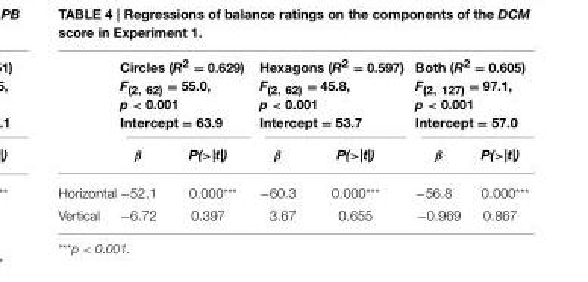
<table><thead><tr><td rowspan="2"></td><td colspan="2">Circles (R<sup>2</sup> = 0.629) F<sub>(2, 62)</sub> = 55.0, p &lt; 0.001 Intercept = 63.9</td><td colspan="2">Hexagons (R<sup>2</sup> = 0.597) F<sub>(2, 62)</sub> = 45.8, p &lt; 0.001 Intercept = 53.7</td><td colspan="2">Both (R<sup>2</sup> = 0.605) F<sub>(2, 127)</sub> = 97.1, p &lt; 0.001 Intercept = 57.0</td></tr><tr><td>β</td><td>P(&gt;|t|)</td><td>β</td><td>P(&gt;|t|)</td><td>β</td><td>P(&gt;|t|)</td></tr></thead><tbody><tr><td>Horizontal</td><td>−52.1</td><td>0.000***</td><td>−60.3</td><td>0.000***</td><td>−56.8</td><td>0.000***</td></tr><tr><td>Vertical</td><td>−6.72</td><td>0.397</td><td>3.67</td><td>0.655</td><td>−0.969</td><td>0.867</td></tr></tbody></table>